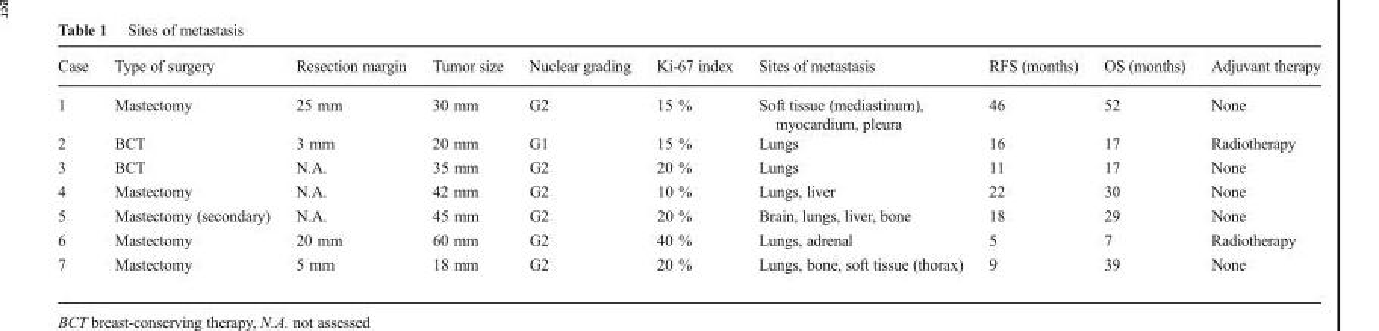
<table><thead><tr><td>Case</td><td>Type of surgery</td><td>Resection margin</td><td>Tumor size</td><td>Nuclear grading</td><td>Ki-67 index</td><td>Sites of metastasis</td><td>RFS (months)</td><td>OS (months)</td><td>Adjuvant therapy</td></tr></thead><tbody><tr><td>1</td><td>Mastectomy</td><td>25 mm</td><td>30 mm</td><td>G2</td><td>15 %</td><td>Soft tissue (mediastinum), myocardium, pleura</td><td>46</td><td>52</td><td>None</td></tr><tr><td>2</td><td>BCT</td><td>3 mm</td><td>20 mm</td><td>G1</td><td>15 %</td><td>Lungs</td><td>16</td><td>17</td><td>Radiotherapy</td></tr><tr><td>3</td><td>BCT</td><td>N.A.</td><td>35 mm</td><td>G2</td><td>20 %</td><td>Lungs</td><td>11</td><td>17</td><td>None</td></tr><tr><td>4</td><td>Mastectomy</td><td>N.A.</td><td>42 mm</td><td>G2</td><td>10 %</td><td>Lungs, liver</td><td>22</td><td>30</td><td>None</td></tr><tr><td>5</td><td>Mastectomy (secondary)</td><td>N.A.</td><td>45 mm</td><td>G2</td><td>20 %</td><td>Brain, lungs, liver, bone</td><td>18</td><td>29</td><td>None</td></tr><tr><td>6</td><td>Mastectomy</td><td>20 mm</td><td>60 mm</td><td>G2</td><td>40 %</td><td>Lungs, adrenal</td><td>5</td><td>7</td><td>Radiotherapy</td></tr><tr><td>7</td><td>Mastectomy</td><td>5 mm</td><td>18 mm</td><td>G2</td><td>20 %</td><td>Lungs, bone, soft tissue (thorax)</td><td>9</td><td>39</td><td>None</td></tr></tbody></table>